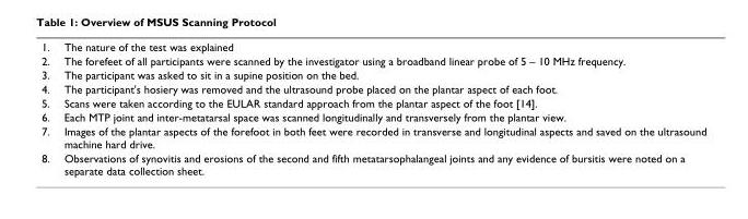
<table><tbody><tr><td>1.</td><td>The nature of the test was explained</td></tr><tr><td>2.</td><td>The forefeet of all participants were scanned by the investigator using a broadband linear probe of 5 – 10 MHz frequency.</td></tr><tr><td>3.</td><td>The participant was asked to sit in a supine position on the bed.</td></tr><tr><td>4.</td><td>The participant&#x27;s hosiery was removed and the ultrasound probe placed on the plantar aspect of each foot.</td></tr><tr><td>5.</td><td>Scans were taken according to the EULAR standard approach from the plantar aspect of the foot [14].</td></tr><tr><td>6.</td><td>Each MTP joint and inter-metatarsal space was scanned longitudinally and transversely from the plantar view.</td></tr><tr><td>7.</td><td>Images of the plantar aspects of the forefoot in both feet were recorded in transverse and longitudinal aspects and saved on the ultrasound machine hard drive.</td></tr><tr><td>8.</td><td>Observations of synovitis and erosions of the second and fifth metatarsophalangeal joints and any evidence of bursitis were noted on a separate data collection sheet.</td></tr></tbody></table>